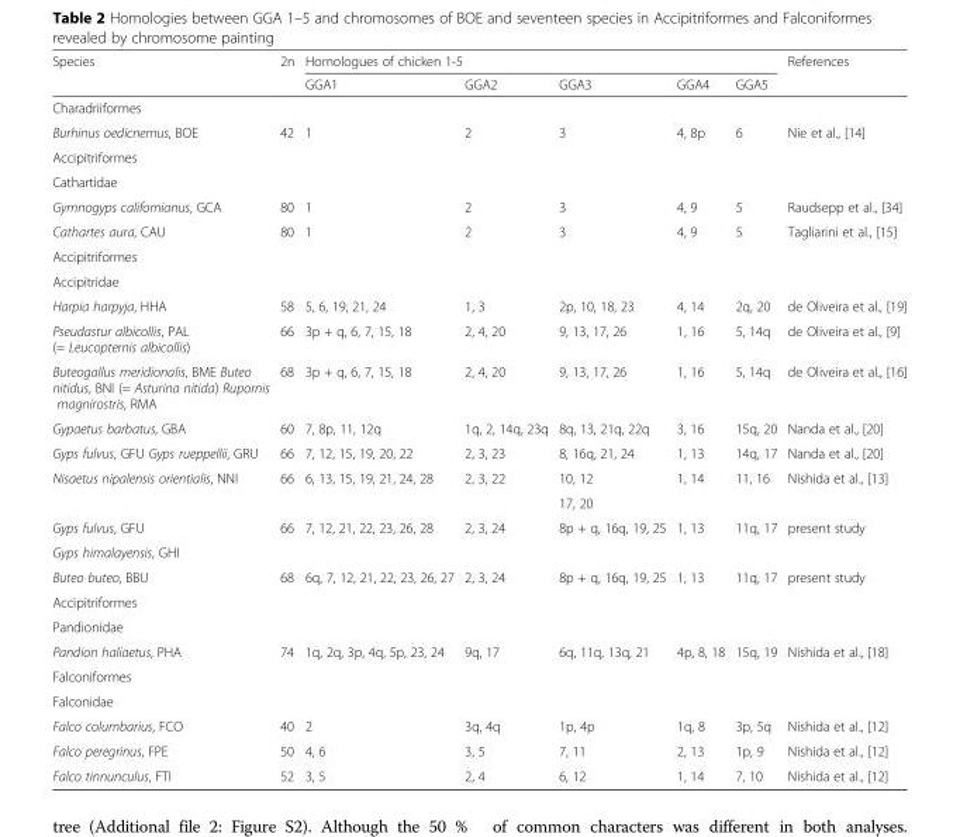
<table><thead><tr><td rowspan="2">Species</td><td rowspan="2">2n</td><td colspan="5">Homologues of chicken 1-5</td><td rowspan="2">References</td></tr><tr><td>GGA1</td><td>GGA2</td><td>GGA3</td><td>GGA4</td><td>GGA5</td></tr></thead><tbody><tr><td colspan="8">Charadriiformes</td></tr><tr><td>Burhinus oedicnemus, BOE</td><td>42</td><td>1</td><td>2</td><td>3</td><td>4, 8p</td><td>6</td><td>Nie et al., [14]</td></tr><tr><td colspan="8">Accipitriformes</td></tr><tr><td colspan="8">Cathartidae</td></tr><tr><td>Gymnogyps californianus, GCA</td><td>80</td><td>1</td><td>2</td><td>3</td><td>4, 9</td><td>5</td><td>Raudsepp et al., [34]</td></tr><tr><td>Cathartes aura, CAU</td><td>80</td><td>1</td><td>2</td><td>3</td><td>4, 9</td><td>5</td><td>Tagliarini et al., [15]</td></tr><tr><td colspan="8">Accipitriformes</td></tr><tr><td colspan="8">Accipitridae</td></tr><tr><td>Harpia harpyja, HHA</td><td>58</td><td>5, 6, 19, 21, 24</td><td>1, 3</td><td>2p, 10, 18, 23</td><td>4, 14</td><td>2q, 20</td><td>de Oliveira et al., [19]</td></tr><tr><td>Pseudastur albicollis, PAL (= Leucopternis albicollis)</td><td>66</td><td>3p + q, 6, 7, 15, 18</td><td>2, 4, 20</td><td>9, 13, 17, 26</td><td>1, 16</td><td>5, 14q</td><td>de Oliveira et al., [9]</td></tr><tr><td>Buteogallus meridionalis, BME Buteo nitidus, BNI (= Asturina nitida) Rupornis magnirostris, RMA</td><td>68</td><td>3p + q, 6, 7, 15, 18</td><td>2, 4, 20</td><td>9, 13, 17, 26</td><td>1, 16</td><td>5, 14q</td><td>de Oliveira et al., [16]</td></tr><tr><td>Gypaetus barbatus, GBA</td><td>60</td><td>7, 8p, 11, 12q</td><td>1q, 2, 14q, 23q</td><td>8q, 13, 21q, 22q</td><td>3, 16</td><td>15q, 20</td><td>Nanda et al., [20]</td></tr><tr><td>Gyps fulvus, GFU Gyps rueppellii, GRU</td><td>66</td><td>7, 12, 15, 19, 20, 22</td><td>2, 3, 23</td><td>8, 16q, 21, 24</td><td>1, 13</td><td>14q, 17</td><td>Nanda et al., [20]</td></tr><tr><td rowspan="2">Nisaetus nipalensis orientialis, NNI</td><td rowspan="2">66</td><td rowspan="2">6, 13, 15, 19, 21, 24, 28</td><td rowspan="2">2, 3, 22</td><td>10, 12</td><td rowspan="2">1, 14</td><td rowspan="2">11, 16</td><td rowspan="2">Nishida et al., [13]</td></tr><tr><td>17, 20</td></tr><tr><td>Gyps fulvus, GFU</td><td rowspan="2">66</td><td rowspan="2">7, 12, 21, 22, 23, 26, 28</td><td rowspan="2">2, 3, 24</td><td rowspan="2">8p + q, 16q, 19, 25</td><td rowspan="2">1, 13</td><td rowspan="2">11q, 17</td><td rowspan="2">present study</td></tr><tr><td>Gyps himalayensis, GHI</td></tr><tr><td>Buteo buteo, BBU</td><td>68</td><td>6q, 7, 12, 21, 22, 23, 26, 27</td><td>2, 3, 24</td><td>8p + q, 16q, 19, 25</td><td>1, 13</td><td>11q, 17</td><td>present study</td></tr><tr><td>Accipitriformes</td><td rowspan="2"></td><td rowspan="2"></td><td rowspan="2"></td><td rowspan="2"></td><td rowspan="2"></td><td rowspan="2"></td><td rowspan="2"></td></tr><tr><td>Pandionidae</td></tr><tr><td>Pandion haliaetus, PHA</td><td>74</td><td>1q, 2q, 3p, 4q, 5p, 23, 24</td><td>9q, 17</td><td>6q, 11q, 13q, 21</td><td>4p, 8, 18</td><td>15q, 19</td><td>Nishida et al., [18]</td></tr><tr><td>Falconiformes</td><td rowspan="2"></td><td rowspan="2"></td><td rowspan="2"></td><td rowspan="2"></td><td rowspan="2"></td><td rowspan="2"></td><td rowspan="2"></td></tr><tr><td>Falconidae</td></tr><tr><td>Falco columbarius, FCO</td><td>40</td><td>2</td><td>3q, 4q</td><td>1p, 4p</td><td>1q, 8</td><td>3p, 5q</td><td>Nishida et al., [12]</td></tr><tr><td>Falco peregrinus, FPE</td><td>50</td><td>4, 6</td><td>3, 5</td><td>7, 11</td><td>2, 13</td><td>1p, 9</td><td>Nishida et al., [12]</td></tr><tr><td>Falco tinnunculus, FTI</td><td>52</td><td>3, 5</td><td>2, 4</td><td>6, 12</td><td>1, 14</td><td>7, 10</td><td>Nishida et al., [12]</td></tr></tbody></table>